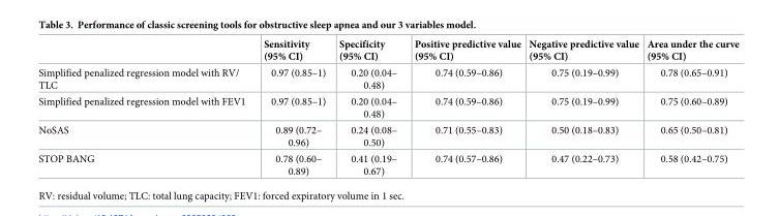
<table><thead><tr><td></td><td>Sensitivity (95% CI)</td><td>Specificity (95% CI)</td><td>Positive predictive value (95% CI)</td><td>Negative predictive value (95% CI)</td><td>Area under the curve (95% CI)</td></tr></thead><tbody><tr><td>Simplified penalized regression model with RV/ TLC</td><td>0.97 (0.85–1)</td><td>0.20 (0.04– 0.48)</td><td>0.74 (0.59–0.86)</td><td>0.75 (0.19–0.99)</td><td>0.78 (0.65–0.91)</td></tr><tr><td>Simplified penalized regression model with FEV1</td><td>0.97 (0.85–1)</td><td>0.20 (0.04– 0.48)</td><td>0.74 (0.59–0.86)</td><td>0.75 (0.19–0.99)</td><td>0.75 (0.60–0.89)</td></tr><tr><td>NoSAS</td><td>0.89 (0.72– 0.96)</td><td>0.24 (0.08– 0.50)</td><td>0.71 (0.55–0.83)</td><td>0.50 (0.18–0.83)</td><td>0.65 (0.50–0.81)</td></tr><tr><td>STOP BANG</td><td>0.78 (0.60– 0.89)</td><td>0.41 (0.19– 0.67)</td><td>0.74 (0.57–0.86)</td><td>0.47 (0.22–0.73)</td><td>0.58 (0.42–0.75)</td></tr></tbody></table>